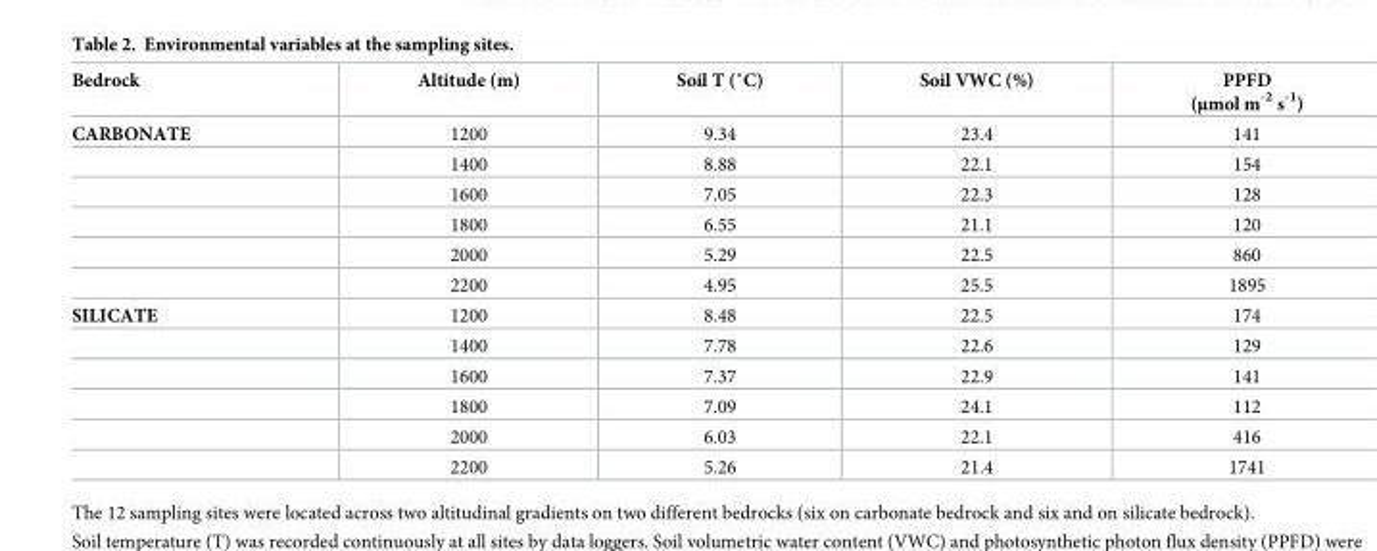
<table><thead><tr><td>Bedrock</td><td>Altitude (m)</td><td>Soil T (˚C)</td><td>Soil VWC (%)</td><td>PPFD (μmol m<sup>-2</sup> s<sup>-1</sup>)</td></tr></thead><tbody><tr><td rowspan="6">CARBONATE</td><td>1200</td><td>9.34</td><td>23.4</td><td>141</td></tr><tr><td>1400</td><td>8.88</td><td>22.1</td><td>154</td></tr><tr><td>1600</td><td>7.05</td><td>22.3</td><td>128</td></tr><tr><td>1800</td><td>6.55</td><td>21.1</td><td>120</td></tr><tr><td>2000</td><td>5.29</td><td>22.5</td><td>860</td></tr><tr><td>2200</td><td>4.95</td><td>25.5</td><td>1895</td></tr><tr><td rowspan="6">SILICATE</td><td>1200</td><td>8.48</td><td>22.5</td><td>174</td></tr><tr><td>1400</td><td>7.78</td><td>22.6</td><td>129</td></tr><tr><td>1600</td><td>7.37</td><td>22.9</td><td>141</td></tr><tr><td>1800</td><td>7.09</td><td>24.1</td><td>112</td></tr><tr><td>2000</td><td>6.03</td><td>22.1</td><td>416</td></tr><tr><td>2200</td><td>5.26</td><td>21.4</td><td>1741</td></tr></tbody></table>